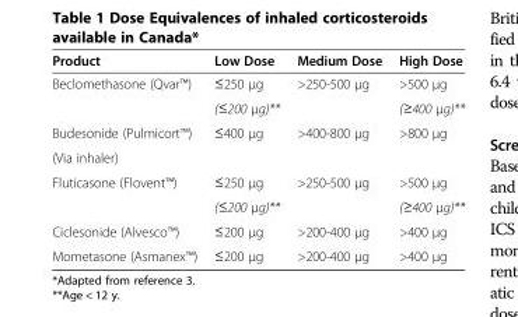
<table><thead><tr><td>Product</td><td>Low Dose</td><td>Medium Dose</td><td>High Dose</td></tr></thead><tbody><tr><td rowspan="2">Beclomethasone (Qvar™)</td><td>≤250 μg</td><td>&gt;250-500 μg</td><td>&gt;500 μg</td></tr><tr><td>(≤200 μg)**</td><td></td><td>(≥400 μg)**</td></tr><tr><td>Budesonide (Pulmicort™)</td><td>≤400 μg</td><td>&gt;400-800 μg</td><td>&gt;800 μg</td></tr><tr><td colspan="4">(Via inhaler)</td></tr><tr><td rowspan="2">Fluticasone (Flovent™)</td><td>≤250 μg</td><td>&gt;250-500 μg</td><td>&gt;500 μg</td></tr><tr><td>(≤200 μg)**</td><td></td><td>(≥400 μg)**</td></tr><tr><td>Ciclesonide (Alvesco™)</td><td>≤200 μg</td><td>&gt;200-400 μg</td><td>&gt;400 μg</td></tr><tr><td>Mometasone (Asmanex™)</td><td>≤200 μg</td><td>&gt;200-400 μg</td><td>&gt;400 μg</td></tr></tbody></table>